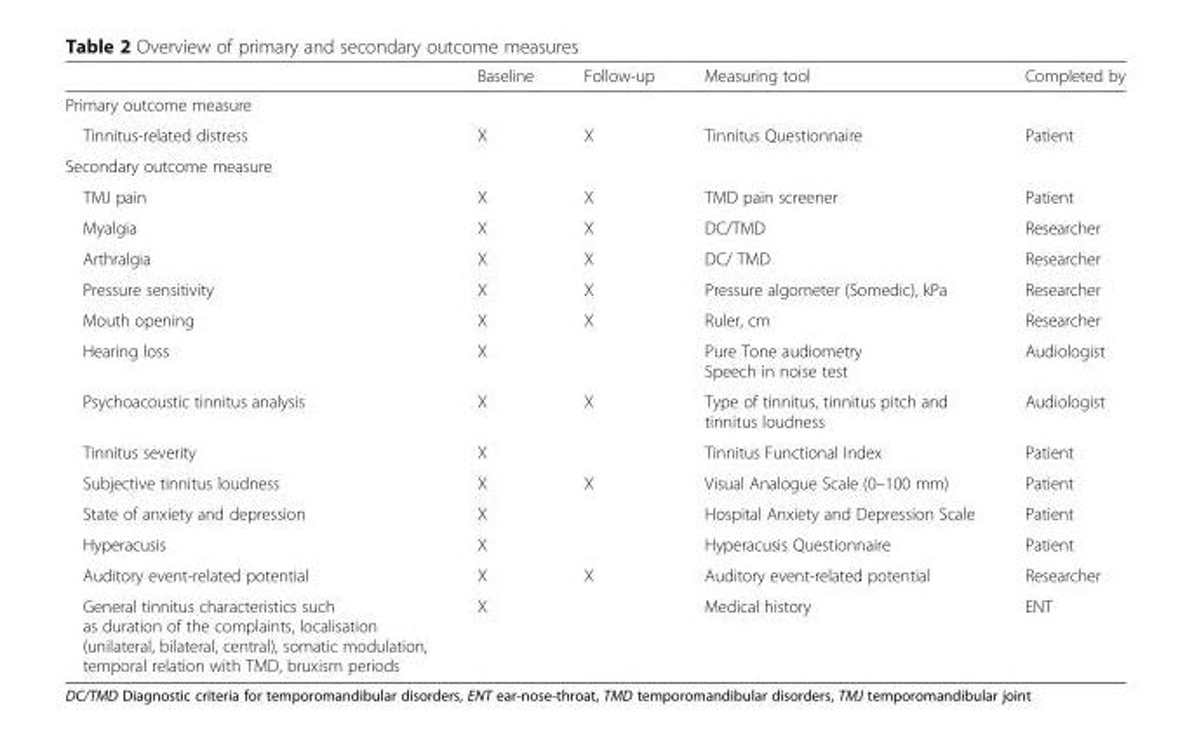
<table><thead><tr><td></td><td>Baseline</td><td>Follow-up</td><td>Measuring tool</td><td>Completed by</td></tr></thead><tbody><tr><td colspan="5">Primary outcome measure</td></tr><tr><td>Tinnitus-related distress</td><td>X</td><td>X</td><td>Tinnitus Questionnaire</td><td>Patient</td></tr><tr><td colspan="5">Secondary outcome measure</td></tr><tr><td>TMJ pain</td><td>X</td><td>X</td><td>TMD pain screener</td><td>Patient</td></tr><tr><td>Myalgia</td><td>X</td><td>X</td><td>DC/TMD</td><td>Researcher</td></tr><tr><td>Arthralgia</td><td>X</td><td>X</td><td>DC/ TMD</td><td>Researcher</td></tr><tr><td>Pressure sensitivity</td><td>X</td><td>X</td><td>Pressure algometer (Somedic), kPa</td><td>Researcher</td></tr><tr><td>Mouth opening</td><td>X</td><td>X</td><td>Ruler, cm</td><td>Researcher</td></tr><tr><td>Hearing loss</td><td>X</td><td></td><td>Pure Tone audiometry Speech in noise test</td><td>Audiologist</td></tr><tr><td>Psychoacoustic tinnitus analysis</td><td>X</td><td>X</td><td>Type of tinnitus, tinnitus pitch and tinnitus loudness</td><td>Audiologist</td></tr><tr><td>Tinnitus severity</td><td>X</td><td></td><td>Tinnitus Functional Index</td><td>Patient</td></tr><tr><td>Subjective tinnitus loudness</td><td>X</td><td>X</td><td>Visual Analogue Scale (0–100 mm)</td><td>Patient</td></tr><tr><td>State of anxiety and depression</td><td>X</td><td></td><td>Hospital Anxiety and Depression Scale</td><td>Patient</td></tr><tr><td>Hyperacusis</td><td>X</td><td></td><td>Hyperacusis Questionnaire</td><td>Patient</td></tr><tr><td>Auditory event-related potential</td><td>X</td><td>X</td><td>Auditory event-related potential</td><td>Researcher</td></tr><tr><td>General tinnitus characteristics such as duration of the complaints, localisation (unilateral, bilateral, central), somatic modulation, temporal relation with TMD, bruxism periods</td><td>X</td><td></td><td>Medical history</td><td>ENT</td></tr></tbody></table>